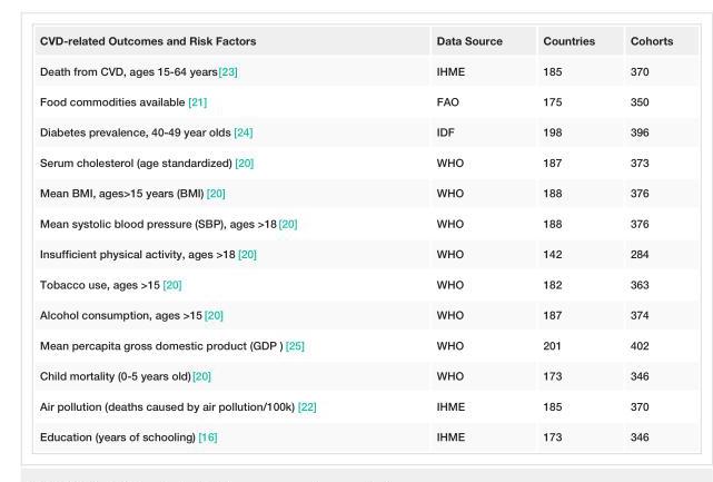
<table><tbody><tr><td>CVD-related Outcomes and Risk Factors</td><td>Data Source</td><td>Countries</td><td>Cohorts</td></tr><tr><td>Death from CVD, ages 15-64 years [23]</td><td>IHME</td><td>185</td><td>370</td></tr><tr><td>Food commodities available [21]</td><td>FAO</td><td>175</td><td>350</td></tr><tr><td>Diabetes prevalence, 40-49 year olds [24]</td><td>IDF</td><td>198</td><td>396</td></tr><tr><td>Serum cholesterol (age standardized) [20]</td><td>WHO</td><td>187</td><td>373</td></tr><tr><td>Mean BMI, ages&gt;15 years (BMI) [20]</td><td>WHO</td><td>188</td><td>376</td></tr><tr><td>Mean systolic blood pressure (SBP), ages &gt;18 [20]</td><td>WHO</td><td>188</td><td>376</td></tr><tr><td>Insufficient physical activity, ages &gt;18 [20]</td><td>WHO</td><td>142</td><td>284</td></tr><tr><td>Tobacco use, ages &gt;15 [20]</td><td>WHO</td><td>182</td><td>363</td></tr><tr><td>Alcohol consumption, ages &gt;15 [20]</td><td>WHO</td><td>187</td><td>374</td></tr><tr><td>Mean percapita gross domestic product (GDP ) [25]</td><td>WHO</td><td>201</td><td>402</td></tr><tr><td>Child mortality (0-5 years old) [20]</td><td>WHO</td><td>173</td><td>346</td></tr><tr><td>Air pollution (deaths caused by air pollution/100k) [22]</td><td>IHME</td><td>185</td><td>370</td></tr><tr><td>Education (years of schooling) [16]</td><td>IHME</td><td>173</td><td>346</td></tr></tbody></table>